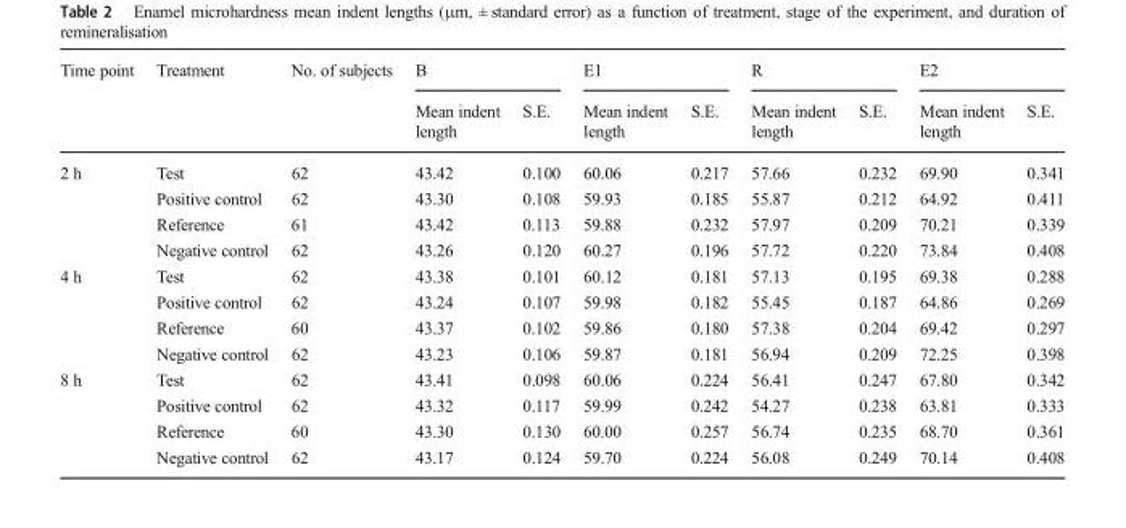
<table><thead><tr><td rowspan="2">Time point</td><td rowspan="2">Treatment</td><td rowspan="2">No. of subjects</td><td colspan="2">B</td><td colspan="2">E1</td><td colspan="2">R</td><td colspan="2">E2</td></tr><tr><td>Mean indent length</td><td>S.E.</td><td>Mean indent length</td><td>S.E.</td><td>Mean indent length</td><td>S.E.</td><td>Mean indent length</td><td>S.E.</td></tr></thead><tbody><tr><td rowspan="4">2 h</td><td>Test</td><td>62</td><td>43.42</td><td>0.100</td><td>60.06</td><td>0.217</td><td>57.66</td><td>0.232</td><td>69.90</td><td>0.341</td></tr><tr><td>Positive control</td><td>62</td><td>43.30</td><td>0.108</td><td>59.93</td><td>0.185</td><td>55.87</td><td>0.212</td><td>64.92</td><td>0.411</td></tr><tr><td>Reference</td><td>61</td><td>43.42</td><td>0.113</td><td>59.88</td><td>0.232</td><td>57.97</td><td>0.209</td><td>70.21</td><td>0.339</td></tr><tr><td>Negative control</td><td>62</td><td>43.26</td><td>0.120</td><td>60.27</td><td>0.196</td><td>57.72</td><td>0.220</td><td>73.84</td><td>0.408</td></tr><tr><td rowspan="4">4 h</td><td>Test</td><td>62</td><td>43.38</td><td>0.101</td><td>60.12</td><td>0.181</td><td>57.13</td><td>0.195</td><td>69.38</td><td>0.288</td></tr><tr><td>Positive control</td><td>62</td><td>43.24</td><td>0.107</td><td>59.98</td><td>0.182</td><td>55.45</td><td>0.187</td><td>64.86</td><td>0.269</td></tr><tr><td>Reference</td><td>60</td><td>43.37</td><td>0.102</td><td>59.86</td><td>0.180</td><td>57.38</td><td>0.204</td><td>69.42</td><td>0.297</td></tr><tr><td>Negative control</td><td>62</td><td>43.23</td><td>0.106</td><td>59.87</td><td>0.181</td><td>56.94</td><td>0.209</td><td>72.25</td><td>0.398</td></tr><tr><td rowspan="4">8 h</td><td>Test</td><td>62</td><td>43.41</td><td>0.098</td><td>60.06</td><td>0.224</td><td>56.41</td><td>0.247</td><td>67.80</td><td>0.342</td></tr><tr><td>Positive control</td><td>62</td><td>43.32</td><td>0.117</td><td>59.99</td><td>0.242</td><td>54.27</td><td>0.238</td><td>63.81</td><td>0.333</td></tr><tr><td>Reference</td><td>60</td><td>43.30</td><td>0.130</td><td>60.00</td><td>0.257</td><td>56.74</td><td>0.235</td><td>68.70</td><td>0.361</td></tr><tr><td>Negative control</td><td>62</td><td>43.17</td><td>0.124</td><td>59.70</td><td>0.224</td><td>56.08</td><td>0.249</td><td>70.14</td><td>0.408</td></tr></tbody></table>